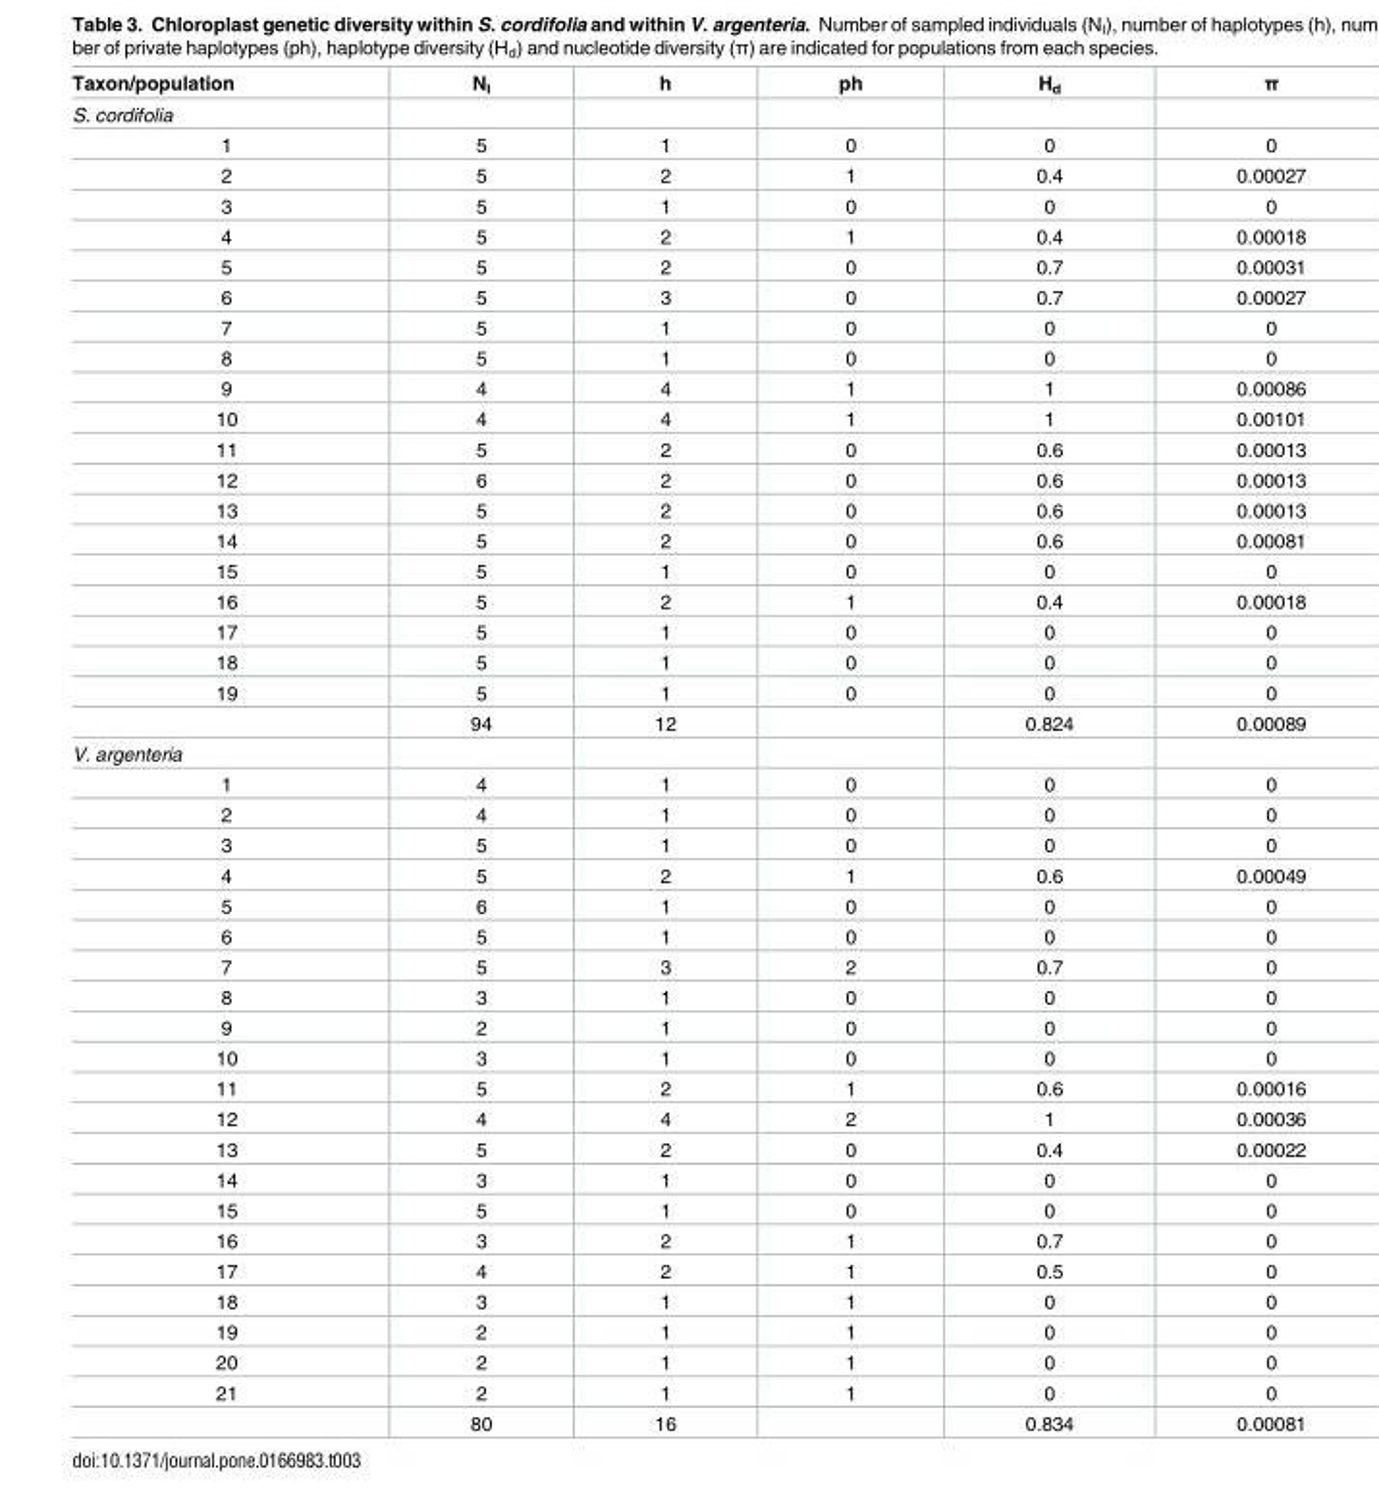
<table><thead><tr><td>Taxon/population</td><td>N<sub>I</sub></td><td>h</td><td>ph</td><td>H<sub>d</sub></td><td>π</td></tr></thead><tbody><tr><td colspan="6">S. cordifolia</td></tr><tr><td>1</td><td>5</td><td>1</td><td>0</td><td>0</td><td>0</td></tr><tr><td>2</td><td>5</td><td>2</td><td>1</td><td>0.4</td><td>0.00027</td></tr><tr><td>3</td><td>5</td><td>1</td><td>0</td><td>0</td><td>0</td></tr><tr><td>4</td><td>5</td><td>2</td><td>1</td><td>0.4</td><td>0.00018</td></tr><tr><td>5</td><td>5</td><td>2</td><td>0</td><td>0.7</td><td>0.00031</td></tr><tr><td>6</td><td>5</td><td>3</td><td>0</td><td>0.7</td><td>0.00027</td></tr><tr><td>7</td><td>5</td><td>1</td><td>0</td><td>0</td><td>0</td></tr><tr><td>8</td><td>5</td><td>1</td><td>0</td><td>0</td><td>0</td></tr><tr><td>9</td><td>4</td><td>4</td><td>1</td><td>1</td><td>0.00086</td></tr><tr><td>10</td><td>4</td><td>4</td><td>1</td><td>1</td><td>0.00101</td></tr><tr><td>11</td><td>5</td><td>2</td><td>0</td><td>0.6</td><td>0.00013</td></tr><tr><td>12</td><td>6</td><td>2</td><td>0</td><td>0.6</td><td>0.00013</td></tr><tr><td>13</td><td>5</td><td>2</td><td>0</td><td>0.6</td><td>0.00013</td></tr><tr><td>14</td><td>5</td><td>2</td><td>0</td><td>0.6</td><td>0.00081</td></tr><tr><td>15</td><td>5</td><td>1</td><td>0</td><td>0</td><td>0</td></tr><tr><td>16</td><td>5</td><td>2</td><td>1</td><td>0.4</td><td>0.00018</td></tr><tr><td>17</td><td>5</td><td>1</td><td>0</td><td>0</td><td>0</td></tr><tr><td>18</td><td>5</td><td>1</td><td>0</td><td>0</td><td>0</td></tr><tr><td rowspan="2">19</td><td>5</td><td>1</td><td>0</td><td>0</td><td>0</td></tr><tr><td>94</td><td>12</td><td></td><td>0.824</td><td>0.00089</td></tr><tr><td colspan="6">V. argenteria</td></tr><tr><td>1</td><td>4</td><td>1</td><td>0</td><td>0</td><td>0</td></tr><tr><td>2</td><td>4</td><td>1</td><td>0</td><td>0</td><td>0</td></tr><tr><td>3</td><td>5</td><td>1</td><td>0</td><td>0</td><td>0</td></tr><tr><td>4</td><td>5</td><td>2</td><td>1</td><td>0.6</td><td>0.00049</td></tr><tr><td>5</td><td>6</td><td>1</td><td>0</td><td>0</td><td>0</td></tr><tr><td>6</td><td>5</td><td>1</td><td>0</td><td>0</td><td>0</td></tr><tr><td>7</td><td>5</td><td>3</td><td>2</td><td>0.7</td><td>0</td></tr><tr><td>8</td><td>3</td><td>1</td><td>0</td><td>0</td><td>0</td></tr><tr><td>9</td><td>2</td><td>1</td><td>0</td><td>0</td><td>0</td></tr><tr><td>10</td><td>3</td><td>1</td><td>0</td><td>0</td><td>0</td></tr><tr><td>11</td><td>5</td><td>2</td><td>1</td><td>0.6</td><td>0.00016</td></tr><tr><td>12</td><td>4</td><td>4</td><td>2</td><td>1</td><td>0.00036</td></tr><tr><td>13</td><td>5</td><td>2</td><td>0</td><td>0.4</td><td>0.00022</td></tr><tr><td>14</td><td>3</td><td>1</td><td>0</td><td>0</td><td>0</td></tr><tr><td>15</td><td>5</td><td>1</td><td>0</td><td>0</td><td>0</td></tr><tr><td>16</td><td>3</td><td>2</td><td>1</td><td>0.7</td><td>0</td></tr><tr><td>17</td><td>4</td><td>2</td><td>1</td><td>0.5</td><td>0</td></tr><tr><td>18</td><td>3</td><td>1</td><td>1</td><td>0</td><td>0</td></tr><tr><td>19</td><td>2</td><td>1</td><td>1</td><td>0</td><td>0</td></tr><tr><td>20</td><td>2</td><td>1</td><td>1</td><td>0</td><td>0</td></tr><tr><td rowspan="2">21</td><td>2</td><td>1</td><td>1</td><td>0</td><td>0</td></tr><tr><td>80</td><td>16</td><td></td><td>0.834</td><td>0.00081</td></tr></tbody></table>